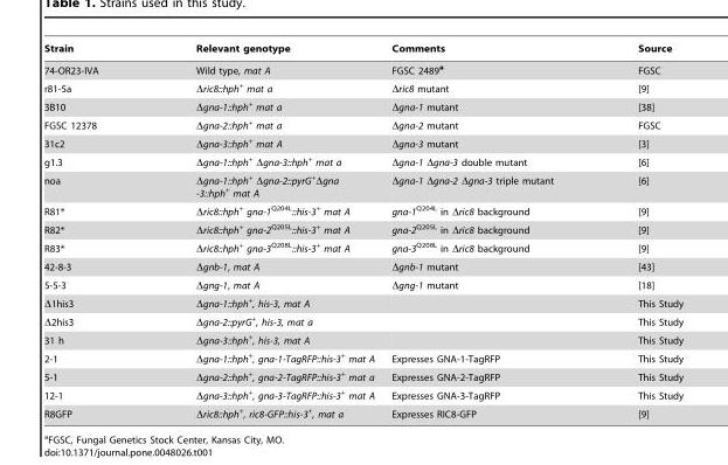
<table><thead><tr><td>Strain</td><td>Relevant genotype</td><td>Comments</td><td>Source</td></tr></thead><tbody><tr><td>74-OR23-IVA</td><td>Wild type, mat A</td><td>FGSC 2489<sup>a</sup></td><td>FGSC</td></tr><tr><td>r81-5a</td><td>Δric8::hph<sup>+</sup> mat a</td><td>Δric8 mutant</td><td>[9]</td></tr><tr><td>3B10</td><td>Δgna-1::hph<sup>+</sup> mat a</td><td>Δgna-1 mutant</td><td>[38]</td></tr><tr><td>FGSC 12378</td><td>Δgna-2::hph<sup>+</sup> mat a</td><td>Δgna-2 mutant</td><td>FGSC</td></tr><tr><td>31c2</td><td>Δgna-3::hph<sup>+</sup> mat A</td><td>Δgna-3 mutant</td><td>[3]</td></tr><tr><td>g1.3</td><td>Δgna-1::hph<sup>+</sup> Δgna-3::hph<sup>+</sup> mat a</td><td>Δgna-1 Δgna-3 double mutant</td><td>[6]</td></tr><tr><td>noa</td><td>Δgna-1::hph<sup>+</sup> Δgna-2::pyrG<sup>+</sup>Δgna -3::hph<sup>+</sup> mat A</td><td>Δgna-1 Δgna-2 Δgna-3 triple mutant</td><td>[6]</td></tr><tr><td>R81*</td><td>Δric8::hph<sup>+</sup> gna-1<sup>Q204L</sup>::his-3<sup>+</sup> mat A</td><td>gna-1<sup>Q204L</sup> in Δric8 background</td><td>[9]</td></tr><tr><td>R82*</td><td>Δric8::hph<sup>+</sup> gna-2<sup>Q205L</sup>::his-3<sup>+</sup> mat A</td><td>gna-2<sup>Q205L</sup> in Δric8 background</td><td>[9]</td></tr><tr><td>R83*</td><td>Δric8::hph<sup>+</sup> gna-3<sup>Q208L</sup>::his-3<sup>+</sup> mat A</td><td>gna-3<sup>Q208L</sup> in Δric8 background</td><td>[9]</td></tr><tr><td>42-8-3</td><td>Δgnb-1, mat A</td><td>Δgnb-1 mutant</td><td>[43]</td></tr><tr><td>5-5-3</td><td>Δgng-1, mat A</td><td>Δgng-1 mutant</td><td>[18]</td></tr><tr><td>Δ1his3</td><td>Δgna-1::hph<sup>+</sup>, his-3, mat A</td><td></td><td>This Study</td></tr><tr><td>Δ2his3</td><td>Δgna-2::pyrG<sup>+</sup>, his-3, mat a</td><td></td><td>This Study</td></tr><tr><td>31 h</td><td>Δgna-3::hph<sup>+</sup>, his-3, mat A</td><td></td><td>This Study</td></tr><tr><td>2-1</td><td>Δgna-1::hph<sup>+</sup>, gna-1-TagRFP::his-3<sup>+</sup> mat A</td><td>Expresses GNA-1-TagRFP</td><td>This Study</td></tr><tr><td>5-1</td><td>Δgna-2::hph<sup>+</sup>, gna-2-TagRFP::his-3<sup>+</sup> mat a</td><td>Expresses GNA-2-TagRFP</td><td>This Study</td></tr><tr><td>12-1</td><td>Δgna-3::hph<sup>+</sup>, gna-3-TagRFP::his-3<sup>+</sup> mat A</td><td>Expresses GNA-3-TagRFP</td><td>This Study</td></tr><tr><td>R8GFP</td><td>Δric8::hph<sup>+</sup>, ric8-GFP::his-3<sup>+</sup>, mat a</td><td>Expresses RIC8-GFP</td><td>[9]</td></tr></tbody></table>